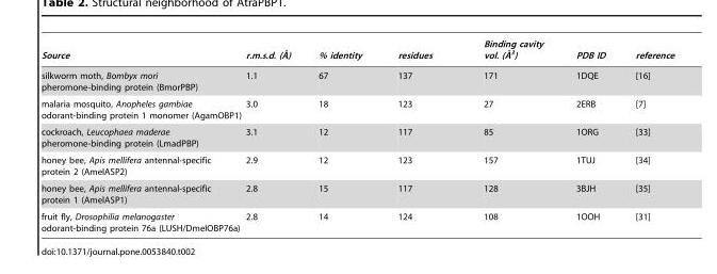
<table><thead><tr><td>Source</td><td>r.m.s.d. (A˚)</td><td>% identity</td><td>residues</td><td>Binding cavity vol. (A˚ 3)</td><td>PDB ID</td><td>reference</td></tr></thead><tbody><tr><td>silkworm moth, Bombyx mori pheromone-binding protein (BmorPBP)</td><td>1.1</td><td>67</td><td>137</td><td>171</td><td>1DQE</td><td>[16]</td></tr><tr><td>malaria mosquito, Anopheles gambiae odorant-binding protein 1 monomer (AgamOBP1)</td><td>3.0</td><td>18</td><td>123</td><td>27</td><td>2ERB</td><td>[7]</td></tr><tr><td>cockroach, Leucophaea maderae pheromone-binding protein (LmadPBP)</td><td>3.1</td><td>12</td><td>117</td><td>85</td><td>1ORG</td><td>[33]</td></tr><tr><td>honey bee, Apis mellifera antennal-specific protein 2 (AmelASP2)</td><td>2.9</td><td>12</td><td>123</td><td>157</td><td>1TUJ</td><td>[34]</td></tr><tr><td>honey bee, Apis mellifera antennal-specific protein 1 (AmelASP1)</td><td>2.8</td><td>15</td><td>117</td><td>128</td><td>3BJH</td><td>[35]</td></tr><tr><td>fruit fly, Drosophilia melanogaster odorant-binding protein 76a (LUSH/DmelOBP76a)</td><td>2.8</td><td>14</td><td>124</td><td>108</td><td>1OOH</td><td>[31]</td></tr></tbody></table>